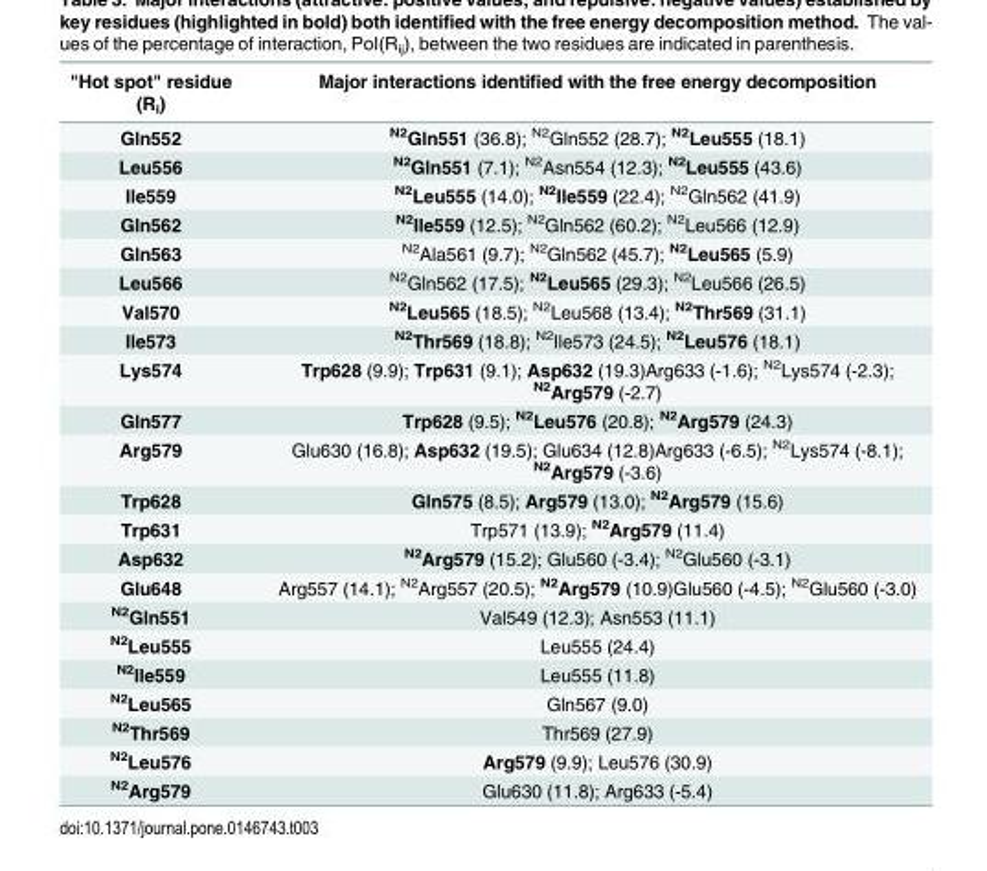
<table><thead><tr><td>&quot;Hot spot&quot; residue (R<sub>i</sub>)</td><td>Major interactions identified with the free energy decomposition</td></tr></thead><tbody><tr><td>Gln552</td><td><sup>N2</sup>Gln551 (36.8); <sup>N2</sup>Gln552 (28.7); <sup>N2</sup>Leu555 (18.1)</td></tr><tr><td>Leu556</td><td><sup>N2</sup>Gln551 (7.1); <sup>N2</sup>Asn554 (12.3); <sup>N2</sup>Leu555 (43.6)</td></tr><tr><td>Ile559</td><td><sup>N2</sup>Leu555 (14.0); <sup>N2</sup>Ile559 (22.4); <sup>N2</sup>Gln562 (41.9)</td></tr><tr><td>Gln562</td><td><sup>N2</sup>Ile559 (12.5); <sup>N2</sup>Gln562 (60.2); <sup>N2</sup>Leu566 (12.9)</td></tr><tr><td>Gln563</td><td><sup>N2</sup>Ala561 (9.7); <sup>N2</sup>Gln562 (45.7); <sup>N2</sup>Leu565 (5.9)</td></tr><tr><td>Leu566</td><td><sup>N2</sup>Gln562 (17.5); <sup>N2</sup>Leu565 (29.3); <sup>N2</sup>Leu566 (26.5)</td></tr><tr><td>Val570</td><td><sup>N2</sup>Leu565 (18.5); <sup>N2</sup>Leu568 (13.4); <sup>N2</sup>Thr569 (31.1)</td></tr><tr><td>Ile573</td><td><sup>N2</sup>Thr569 (18.8); <sup>N2</sup>Ile573 (24.5); <sup>N2</sup>Leu576 (18.1)</td></tr><tr><td>Lys574</td><td>Trp628 (9.9); Trp631 (9.1); Asp632 (19.3)Arg633 (-1.6); <sup>N2</sup>Lys574 (-2.3); <sup>N2</sup>Arg579 (-2.7)</td></tr><tr><td>Gln577</td><td>Trp628 (9.5); <sup>N2</sup>Leu576 (20.8); <sup>N2</sup>Arg579 (24.3)</td></tr><tr><td>Arg579</td><td>Glu630 (16.8); Asp632 (19.5); Glu634 (12.8)Arg633 (-6.5); <sup>N2</sup>Lys574 (-8.1); <sup>N2</sup>Arg579 (-3.6)</td></tr><tr><td>Trp628</td><td>Gln575 (8.5); Arg579 (13.0); <sup>N2</sup>Arg579 (15.6)</td></tr><tr><td>Trp631</td><td>Trp571 (13.9); <sup>N2</sup>Arg579 (11.4)</td></tr><tr><td>Asp632</td><td><sup>N2</sup>Arg579 (15.2); Glu560 (-3.4); <sup>N2</sup>Glu560 (-3.1)</td></tr><tr><td>Glu648</td><td>Arg557 (14.1); <sup>N2</sup>Arg557 (20.5); <sup>N2</sup>Arg579 (10.9)Glu560 (-4.5); <sup>N2</sup>Glu560 (-3.0)</td></tr><tr><td><sup>N2</sup>Gln551</td><td>Val549 (12.3); Asn553 (11.1)</td></tr><tr><td><sup>N2</sup>Leu555</td><td>Leu555 (24.4)</td></tr><tr><td><sup>N2</sup>Ile559</td><td>Leu555 (11.8)</td></tr><tr><td><sup>N2</sup>Leu565</td><td>Gln567 (9.0)</td></tr><tr><td><sup>N2</sup>Thr569</td><td>Thr569 (27.9)</td></tr><tr><td><sup>N2</sup>Leu576</td><td>Arg579 (9.9); Leu576 (30.9)</td></tr><tr><td><sup>N2</sup>Arg579</td><td>Glu630 (11.8); Arg633 (-5.4)</td></tr></tbody></table>